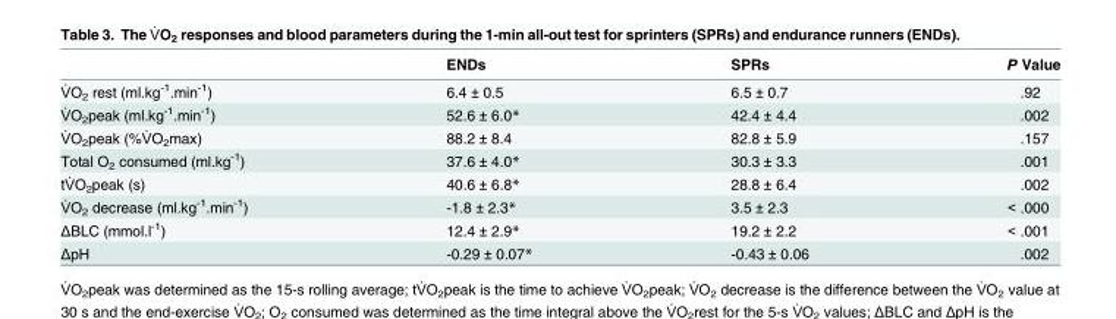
<table><thead><tr><td></td><td>ENDs</td><td>SPRs</td><td>P Value</td></tr></thead><tbody><tr><td>V̇O<sub>2</sub> rest (ml.kg<sup>-1</sup>.min<sup>-1</sup>)</td><td>6.4 ± 0.5</td><td>6.5 ± 0.7</td><td>.92</td></tr><tr><td>V̇O<sub>2</sub>peak (ml.kg<sup>-1</sup>.min<sup>-1</sup>)</td><td>52.6 ± 6.0*</td><td>42.4 ± 4.4</td><td>.002</td></tr><tr><td>V̇O<sub>2</sub>peak (%V̇O<sub>2</sub>max)</td><td>88.2 ± 8.4</td><td>82.8 ± 5.9</td><td>.157</td></tr><tr><td>Total O<sub>2</sub> consumed (ml.kg<sup>-1</sup>)</td><td>37.6 ± 4.0*</td><td>30.3 ± 3.3</td><td>.001</td></tr><tr><td>tV̇O<sub>2</sub>peak (s)</td><td>40.6 ± 6.8*</td><td>28.8 ± 6.4</td><td>.002</td></tr><tr><td>V̇O<sub>2</sub> decrease (ml.kg<sup>-1</sup>.min<sup>-1</sup>)</td><td>-1.8 ± 2.3*</td><td>3.5 ± 2.3</td><td>&lt; .000</td></tr><tr><td>ΔBLC (mmol.l-1)</td><td>12.4 ± 2.9*</td><td>19.2 ± 2.2</td><td>&lt; .001</td></tr><tr><td>ΔpH</td><td>-0.29 ± 0.07*</td><td>-0.43 ± 0.06</td><td>.002</td></tr></tbody></table>